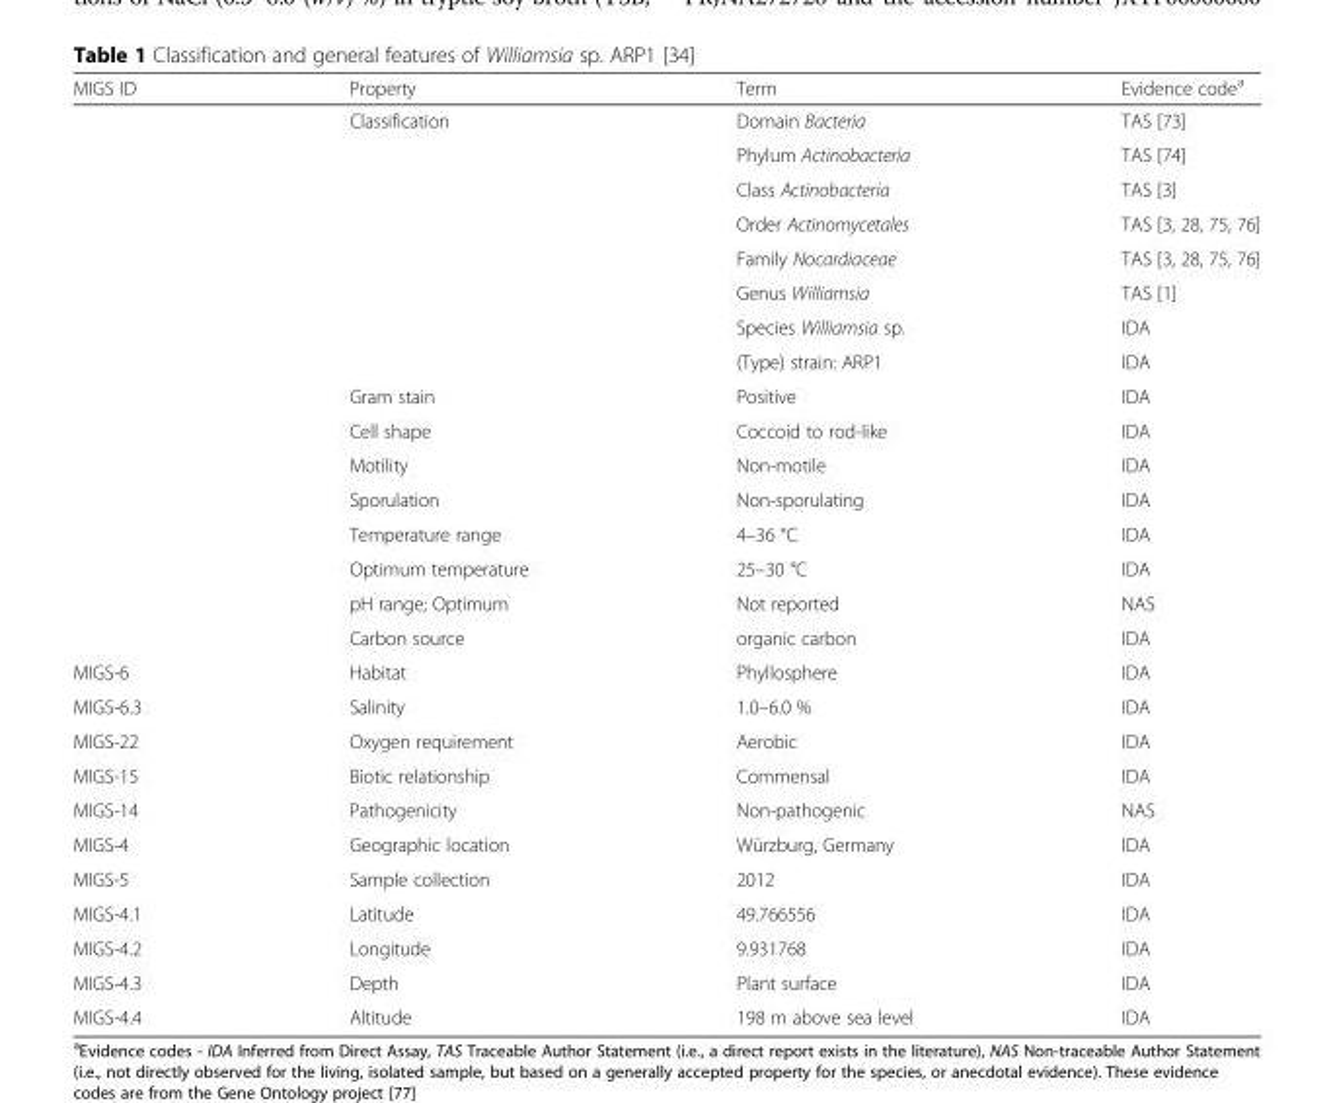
<table><thead><tr><td>MIGS ID</td><td>Property</td><td>Term</td><td>Evidence code<sup>a</sup></td></tr></thead><tbody><tr><td></td><td rowspan="8">Classification</td><td>Domain Bacteria</td><td>TAS [73]</td></tr><tr><td></td><td>Phylum Actinobacteria</td><td>TAS [74]</td></tr><tr><td></td><td>Class Actinobacteria</td><td>TAS [3]</td></tr><tr><td></td><td>Order Actinomycetales</td><td>TAS [3, 28, 75, 76]</td></tr><tr><td></td><td>Family Nocardiaceae</td><td>TAS [3, 28, 75, 76]</td></tr><tr><td></td><td>Genus Williamsia</td><td>TAS [1]</td></tr><tr><td></td><td>Species Williamsia sp.</td><td>IDA</td></tr><tr><td></td><td>(Type) strain: ARP1</td><td>IDA</td></tr><tr><td></td><td>Gram stain</td><td>Positive</td><td>IDA</td></tr><tr><td></td><td>Cell shape</td><td>Coccoid to rod-like</td><td>IDA</td></tr><tr><td></td><td>Motility</td><td>Non-motile</td><td>IDA</td></tr><tr><td></td><td>Sporulation</td><td>Non-sporulating</td><td>IDA</td></tr><tr><td></td><td>Temperature range</td><td>4–36 °C</td><td>IDA</td></tr><tr><td></td><td>Optimum temperature</td><td>25–30 °C</td><td>IDA</td></tr><tr><td></td><td>pH range; Optimum</td><td>Not reported</td><td>NAS</td></tr><tr><td></td><td>Carbon source</td><td>organic carbon</td><td>IDA</td></tr><tr><td>MIGS-6</td><td>Habitat</td><td>Phyllosphere</td><td>IDA</td></tr><tr><td>MIGS-6.3</td><td>Salinity</td><td>1.0–6.0 %</td><td>IDA</td></tr><tr><td>MIGS-22</td><td>Oxygen requirement</td><td>Aerobic</td><td>IDA</td></tr><tr><td>MIGS-15</td><td>Biotic relationship</td><td>Commensal</td><td>IDA</td></tr><tr><td>MIGS-14</td><td>Pathogenicity</td><td>Non-pathogenic</td><td>NAS</td></tr><tr><td>MIGS-4</td><td>Geographic location</td><td>Würzburg, Germany</td><td>IDA</td></tr><tr><td>MIGS-5</td><td>Sample collection</td><td>2012</td><td>IDA</td></tr><tr><td>MIGS-4.1</td><td>Latitude</td><td>49.766556</td><td>IDA</td></tr><tr><td>MIGS-4.2</td><td>Longitude</td><td>9.931768</td><td>IDA</td></tr><tr><td>MIGS-4.3</td><td>Depth</td><td>Plant surface</td><td>IDA</td></tr><tr><td>MIGS-4.4</td><td>Altitude</td><td>198 m above sea level</td><td>IDA</td></tr></tbody></table>